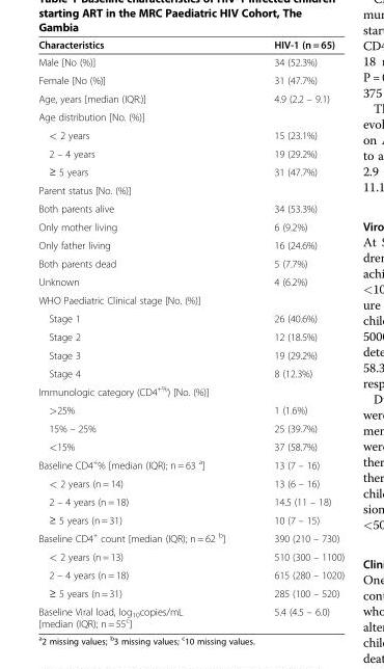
<table><thead><tr><td>Characteristics</td><td>HIV-1 (n = 65)</td></tr></thead><tbody><tr><td>Male [No (%)]</td><td>34 (52.3%)</td></tr><tr><td>Female [No (%)]</td><td>31 (47.7%)</td></tr><tr><td>Age, years [median (IQR:)]</td><td>4.9 (2.2 – 9.1)</td></tr><tr><td colspan="2">Age distribution [No. (%)]</td></tr><tr><td>&lt; 2 years</td><td>15 (23.1%)</td></tr><tr><td>2 – 4 years</td><td>19 (29.2%)</td></tr><tr><td>≥ 5 years</td><td>31 (47.7%)</td></tr><tr><td colspan="2">Parent status [No. (%)]</td></tr><tr><td>Both parents alive</td><td>34 (53.3%)</td></tr><tr><td>Only mother living</td><td>6 (9.2%)</td></tr><tr><td>Only father living</td><td>16 (24.6%)</td></tr><tr><td>Both parents dead</td><td>5 (7.7%)</td></tr><tr><td>Unknown</td><td>4 (6.2%)</td></tr><tr><td colspan="2">WHO Paediatric Clinical stage [No. (%)]</td></tr><tr><td>Stage 1</td><td>26 (40.6%)</td></tr><tr><td>Stage 2</td><td>12 (18.5%)</td></tr><tr><td>Stage 3</td><td>19 (29.2%)</td></tr><tr><td>Stage 4</td><td>8 (12.3%)</td></tr><tr><td colspan="2">Immunologic category (CD4<sup>+%</sup>) [No. (%)]</td></tr><tr><td>&gt;25%</td><td>1 (1.6%)</td></tr><tr><td>15% – 25%</td><td>25 (39.7%)</td></tr><tr><td>&lt;15%</td><td>37 (58.7%)</td></tr><tr><td>Baseline CD4<sup>+</sup>% [median (IQR); n = 63 <sup>a</sup>]</td><td>13 (7 – 16)</td></tr><tr><td>&lt; 2 years (n = 14)</td><td>13 (6 – 16)</td></tr><tr><td>2 – 4 years (n = 18)</td><td>14.5 (11 – 18)</td></tr><tr><td>≥ 5 years (n = 31)</td><td>10 (7 – 15)</td></tr><tr><td>Baseline CD4<sup>+</sup> count [median (IQR); n = 62 <sup>b</sup>]</td><td>390 (210 – 730)</td></tr><tr><td>&lt; 2 years (n = 13)</td><td>510 (300 – 1100)</td></tr><tr><td>2 – 4 years (n = 18)</td><td>615 (280 – 1020)</td></tr><tr><td>≥ 5 years (n = 31)</td><td>285 (100 – 520)</td></tr><tr><td>Baseline Viral load, log<sub>10</sub>copies/mL [median (IQR); n = 55<sup>c</sup>]</td><td>5.4 (4.5 – 6.0)</td></tr></tbody></table>